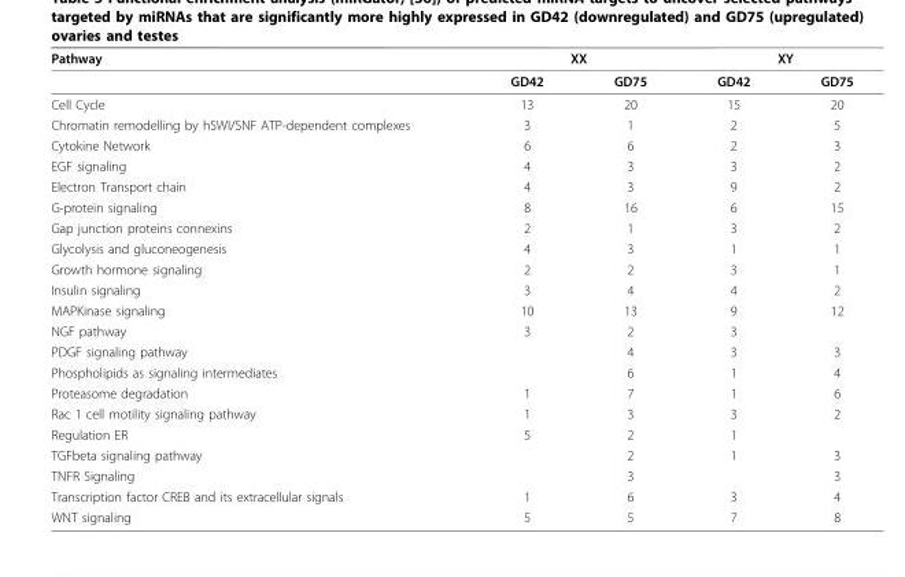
<table><thead><tr><td rowspan="2">Pathway</td><td colspan="2">XX</td><td colspan="2">XY</td></tr><tr><td>GD42</td><td>GD75</td><td>GD42</td><td>GD75</td></tr></thead><tbody><tr><td>Cell Cycle</td><td>13</td><td>20</td><td>15</td><td>20</td></tr><tr><td>Chromatin remodelling by hSWI/SNF ATP-dependent complexes</td><td>3</td><td>1</td><td>2</td><td>5</td></tr><tr><td>Cytokine Network</td><td>6</td><td>6</td><td>2</td><td>3</td></tr><tr><td>EGF signaling</td><td>4</td><td>3</td><td>3</td><td>2</td></tr><tr><td>Electron Transport chain</td><td>4</td><td>3</td><td>9</td><td>2</td></tr><tr><td>G-protein signaling</td><td>8</td><td>16</td><td>6</td><td>15</td></tr><tr><td>Gap junction proteins connexins</td><td>2</td><td>1</td><td>3</td><td>2</td></tr><tr><td>Glycolysis and gluconeogenesis</td><td>4</td><td>3</td><td>1</td><td>1</td></tr><tr><td>Growth hormone signaling</td><td>2</td><td>2</td><td>3</td><td>1</td></tr><tr><td>Insulin signaling</td><td>3</td><td>4</td><td>4</td><td>2</td></tr><tr><td>MAPKinase signaling</td><td>10</td><td>13</td><td>9</td><td>12</td></tr><tr><td>NGF pathway</td><td>3</td><td>2</td><td>3</td><td></td></tr><tr><td>PDGF signaling pathway</td><td></td><td>4</td><td>3</td><td>3</td></tr><tr><td>Phospholipids as signaling intermediates</td><td></td><td>6</td><td>1</td><td>4</td></tr><tr><td>Proteasome degradation</td><td>1</td><td>7</td><td>1</td><td>6</td></tr><tr><td>Rac 1 cell motility signaling pathway</td><td>1</td><td>3</td><td>3</td><td>2</td></tr><tr><td>Regulation ER</td><td>5</td><td>2</td><td>1</td><td></td></tr><tr><td>TGFbeta signaling pathway</td><td></td><td>2</td><td>1</td><td>3</td></tr><tr><td>TNFR Signaling</td><td></td><td>3</td><td></td><td>3</td></tr><tr><td>Transcription factor CREB and its extracellular signals</td><td>1</td><td>6</td><td>3</td><td>4</td></tr><tr><td>WNT signaling</td><td>5</td><td>5</td><td>7</td><td>8</td></tr></tbody></table>